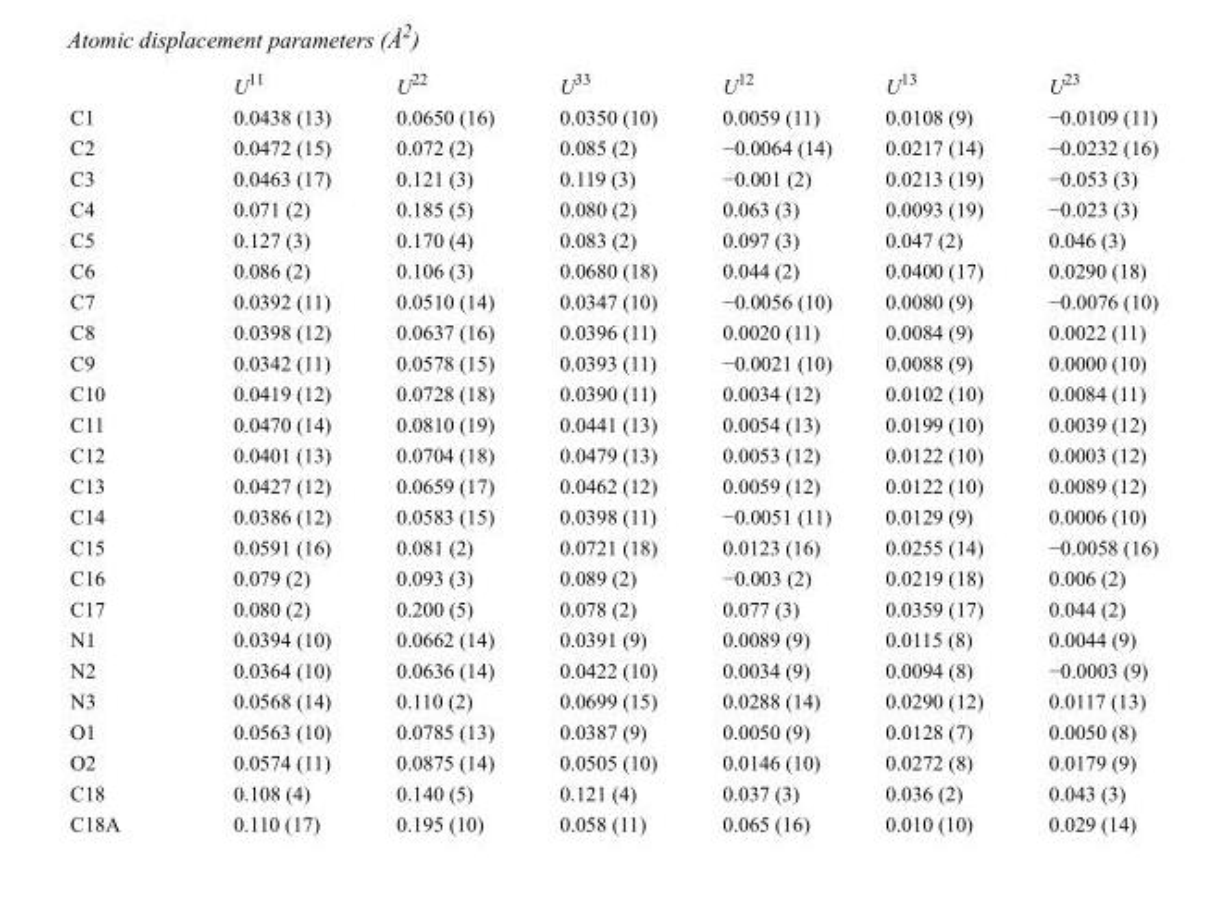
<table><thead><tr><td></td><td>U<sup>11</sup></td><td>U<sup>22</sup></td><td>U<sup>33</sup></td><td>U<sup>12</sup></td><td>U<sup>13</sup></td><td>U<sup>23</sup></td></tr></thead><tbody><tr><td>C1</td><td>0.0438 (13)</td><td>0.0650 (16)</td><td>0.0350 (10)</td><td>0.0059 (11)</td><td>0.0108 (9)</td><td>−0.0109 (11)</td></tr><tr><td>C2</td><td>0.0472 (15)</td><td>0.072 (2)</td><td>0.085 (2)</td><td>−0.0064 (14)</td><td>0.0217 (14)</td><td>−0.0232 (16)</td></tr><tr><td>C3</td><td>0.0463 (17)</td><td>0.121 (3)</td><td>0.119 (3)</td><td>−0.001 (2)</td><td>0.0213 (19)</td><td>−0.053 (3)</td></tr><tr><td>C4</td><td>0.071 (2)</td><td>0.185 (5)</td><td>0.080 (2)</td><td>0.063 (3)</td><td>0.0093 (19)</td><td>−0.023 (3)</td></tr><tr><td>C5</td><td>0.127 (3)</td><td>0.170 (4)</td><td>0.083 (2)</td><td>0.097 (3)</td><td>0.047 (2)</td><td>0.046 (3)</td></tr><tr><td>C6</td><td>0.086 (2)</td><td>0.106 (3)</td><td>0.0680 (18)</td><td>0.044 (2)</td><td>0.0400 (17)</td><td>0.0290 (18)</td></tr><tr><td>C7</td><td>0.0392 (11)</td><td>0.0510 (14)</td><td>0.0347 (10)</td><td>−0.0056 (10)</td><td>0.0080 (9)</td><td>−0.0076 (10)</td></tr><tr><td>C8</td><td>0.0398 (12)</td><td>0.0637 (16)</td><td>0.0396 (11)</td><td>0.0020 (11)</td><td>0.0084 (9)</td><td>0.0022 (11)</td></tr><tr><td>C9</td><td>0.0342 (11)</td><td>0.0578 (15)</td><td>0.0393 (11)</td><td>−0.0021 (10)</td><td>0.0088 (9)</td><td>0.0000 (10)</td></tr><tr><td>C10</td><td>0.0419 (12)</td><td>0.0728 (18)</td><td>0.0390 (11)</td><td>0.0034 (12)</td><td>0.0102 (10)</td><td>0.0084 (11)</td></tr><tr><td>C11</td><td>0.0470 (14)</td><td>0.0810 (19)</td><td>0.0441 (13)</td><td>0.0054 (13)</td><td>0.0199 (10)</td><td>0.0039 (12)</td></tr><tr><td>C12</td><td>0.0401 (13)</td><td>0.0704 (18)</td><td>0.0479 (13)</td><td>0.0053 (12)</td><td>0.0122 (10)</td><td>0.0003 (12)</td></tr><tr><td>C13</td><td>0.0427 (12)</td><td>0.0659 (17)</td><td>0.0462 (12)</td><td>0.0059 (12)</td><td>0.0122 (10)</td><td>0.0089 (12)</td></tr><tr><td>C14</td><td>0.0386 (12)</td><td>0.0583 (15)</td><td>0.0398 (11)</td><td>−0.0051 (11)</td><td>0.0129 (9)</td><td>0.0006 (10)</td></tr><tr><td>C15</td><td>0.0591 (16)</td><td>0.081 (2)</td><td>0.0721 (18)</td><td>0.0123 (16)</td><td>0.0255 (14)</td><td>−0.0058 (16)</td></tr><tr><td>C16</td><td>0.079 (2)</td><td>0.093 (3)</td><td>0.089 (2)</td><td>−0.003 (2)</td><td>0.0219 (18)</td><td>0.006 (2)</td></tr><tr><td>C17</td><td>0.080 (2)</td><td>0.200 (5)</td><td>0.078 (2)</td><td>0.077 (3)</td><td>0.0359 (17)</td><td>0.044 (2)</td></tr><tr><td>N1</td><td>0.0394 (10)</td><td>0.0662 (14)</td><td>0.0391 (9)</td><td>0.0089 (9)</td><td>0.0115 (8)</td><td>0.0044 (9)</td></tr><tr><td>N2</td><td>0.0364 (10)</td><td>0.0636 (14)</td><td>0.0422 (10)</td><td>0.0034 (9)</td><td>0.0094 (8)</td><td>−0.0003 (9)</td></tr><tr><td>N3</td><td>0.0568 (14)</td><td>0.110 (2)</td><td>0.0699 (15)</td><td>0.0288 (14)</td><td>0.0290 (12)</td><td>0.0117 (13)</td></tr><tr><td>O1</td><td>0.0563 (10)</td><td>0.0785 (13)</td><td>0.0387 (9)</td><td>0.0050 (9)</td><td>0.0128 (7)</td><td>0.0050 (8)</td></tr><tr><td>O2</td><td>0.0574 (11)</td><td>0.0875 (14)</td><td>0.0505 (10)</td><td>0.0146 (10)</td><td>0.0272 (8)</td><td>0.0179 (9)</td></tr><tr><td>C18</td><td>0.108 (4)</td><td>0.140 (5)</td><td>0.121 (4)</td><td>0.037 (3)</td><td>0.036 (2)</td><td>0.043 (3)</td></tr><tr><td>C18A</td><td>0.110 (17)</td><td>0.195 (10)</td><td>0.058 (11)</td><td>0.065 (16)</td><td>0.010 (10)</td><td>0.029 (14)</td></tr></tbody></table>